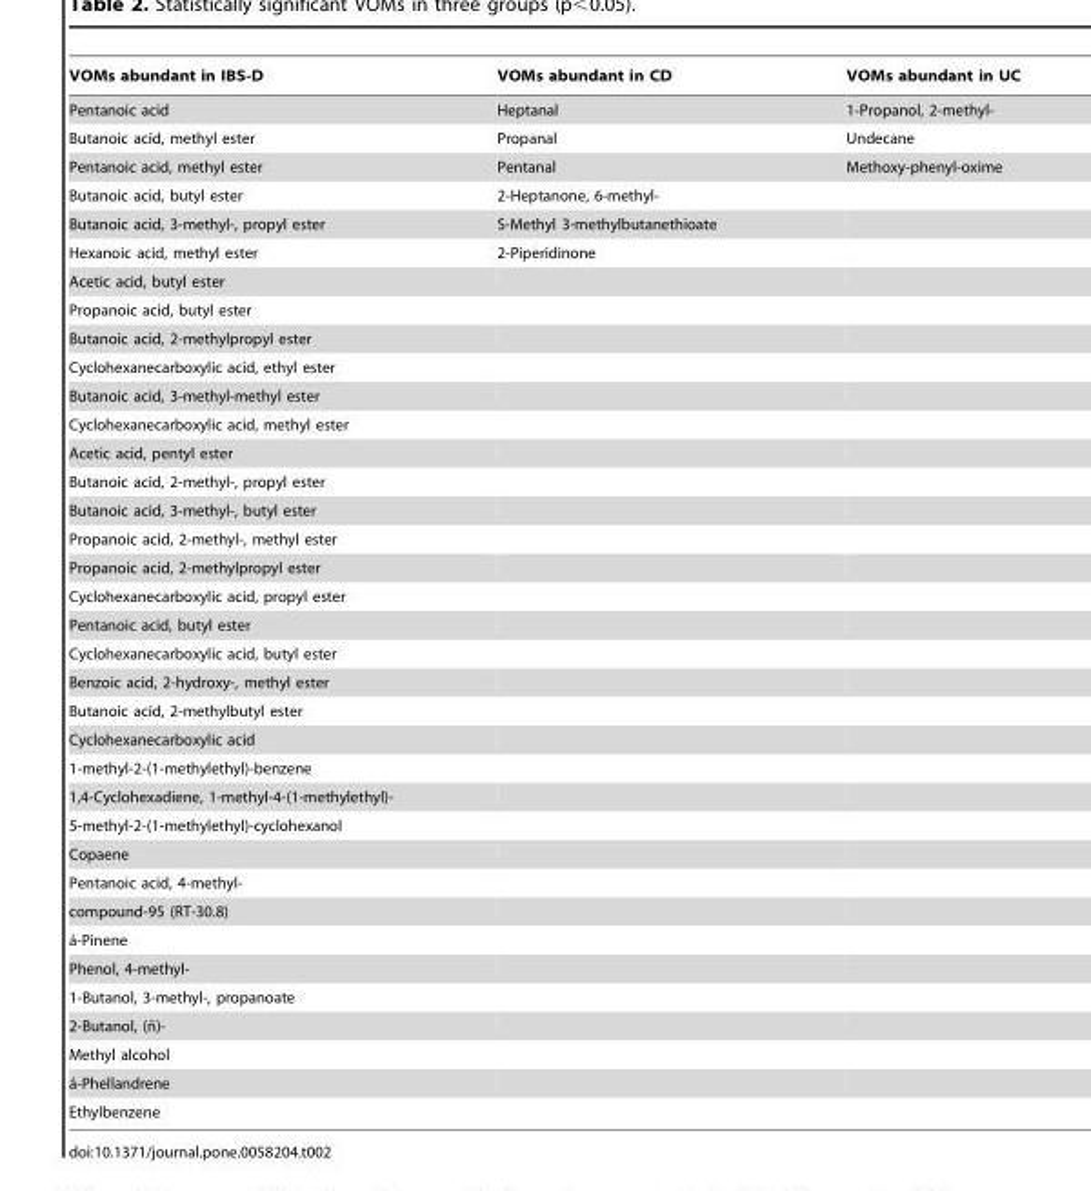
<table><thead><tr><td>VOMs abundant in IBS-D</td><td>VOMs abundant in CD</td><td>VOMs abundant in UC</td></tr></thead><tbody><tr><td>Pentanoic acid</td><td>Heptanal</td><td>1-Propanol, 2-methyl-</td></tr><tr><td>Butanoic acid, methyl ester</td><td>Propanal</td><td>Undecane</td></tr><tr><td>Pentanoic acid, methyl ester</td><td>Pentanal</td><td>Methoxy-phenyl-oxime</td></tr><tr><td>Butanoic acid, butyl ester</td><td>2-Heptanone, 6-methyl-</td><td></td></tr><tr><td>Butanoic acid, 3-methyl-, propyl ester</td><td>S-Methyl 3-methylbutanethioate</td><td></td></tr><tr><td>Hexanoic acid, methyl ester</td><td>2-Piperidinone</td><td></td></tr><tr><td colspan="3">Acetic acid, butyl ester</td></tr><tr><td colspan="3">Propanoic acid, butyl ester</td></tr><tr><td colspan="3">Butanoic acid, 2-methylpropyl ester</td></tr><tr><td colspan="3">Cyclohexanecarboxylic acid, ethyl ester</td></tr><tr><td colspan="3">Butanoic acid, 3-methyl-methyl ester</td></tr><tr><td colspan="3">Cyclohexanecarboxylic acid, methyl ester</td></tr><tr><td colspan="3">Acetic acid, pentyl ester</td></tr><tr><td colspan="3">Butanoic acid, 2-methyl-, propyl ester</td></tr><tr><td colspan="3">Butanoic acid, 3-methyl-, butyl ester</td></tr><tr><td colspan="3">Propanoic acid, 2-methyl-, methyl ester</td></tr><tr><td colspan="3">Propanoic acid, 2-methylpropyl ester</td></tr><tr><td colspan="3">Cyclohexanecarboxylic acid, propyl ester</td></tr><tr><td colspan="3">Pentanoic acid, butyl ester</td></tr><tr><td colspan="3">Cyclohexanecarboxylic acid, butyl ester</td></tr><tr><td colspan="3">Benzoic acid, 2-hydroxy-, methyl ester</td></tr><tr><td colspan="3">Butanoic acid, 2-methylbutyl ester</td></tr><tr><td colspan="3">Cyclohexanecarboxylic acid</td></tr><tr><td colspan="3">1-methyl-2-(1-methylethyl)-benzene</td></tr><tr><td colspan="3">1,4-Cyclohexadiene, 1-methyl-4-(1-methylethyl)-</td></tr><tr><td colspan="3">5-methyl-2-(1-methylethyl)-cyclohexanol</td></tr><tr><td colspan="3">Copaene</td></tr><tr><td colspan="3">Pentanoic acid, 4-methyl-</td></tr><tr><td colspan="3">compound-95 (RT-30.8)</td></tr><tr><td colspan="3">a´-Pinene</td></tr><tr><td colspan="3">Phenol, 4-methyl-</td></tr><tr><td colspan="3">1-Butanol, 3-methyl-, propanoate</td></tr><tr><td colspan="3">2-Butanol, (n˜)-</td></tr><tr><td colspan="3">Methyl alcohol</td></tr><tr><td colspan="3">a´-Phellandrene</td></tr><tr><td>Ethylbenzene</td><td></td><td></td></tr></tbody></table>